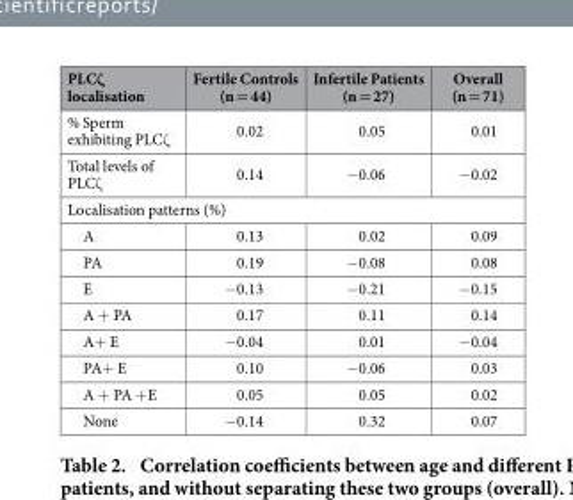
<table><thead><tr><td>PLCζ localisation</td><td>Fertile Controls (n = 44)</td><td>Infertile Patients (n = 27)</td><td>Overall (n = 71)</td></tr></thead><tbody><tr><td>% Sperm exhibiting PLCζ</td><td>0.02</td><td>0.05</td><td>0.01</td></tr><tr><td>Total levels of PLCζ</td><td>0.14</td><td>− 0.06</td><td>− 0.02</td></tr><tr><td colspan="4">Localisation patterns (%)</td></tr><tr><td>A</td><td>0.13</td><td>0.02</td><td>0.09</td></tr><tr><td>PA</td><td>0.19</td><td>− 0.08</td><td>0.08</td></tr><tr><td>E</td><td>− 0.13</td><td>− 0.21</td><td>− 0.15</td></tr><tr><td>A + PA</td><td>0.17</td><td>0.11</td><td>0.14</td></tr><tr><td>A+ E</td><td>− 0.04</td><td>0.01</td><td>− 0.04</td></tr><tr><td>PA+ E</td><td>0.10</td><td>− 0.06</td><td>0.03</td></tr><tr><td>A + PA + E</td><td>0.05</td><td>0.05</td><td>0.02</td></tr><tr><td>None</td><td>− 0.14</td><td>0.32</td><td>0.07</td></tr></tbody></table>